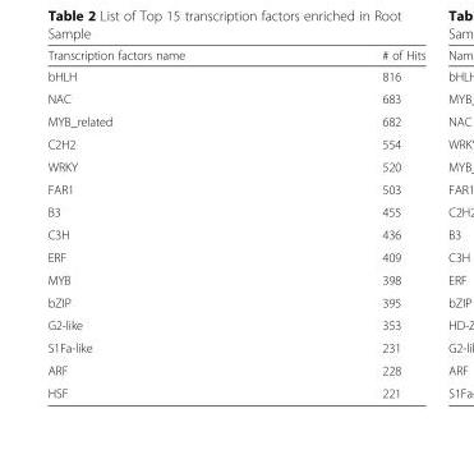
<table><thead><tr><td>Transcription factors name</td><td># of Hits</td></tr></thead><tbody><tr><td>bHLH</td><td>816</td></tr><tr><td>NAC</td><td>683</td></tr><tr><td>MYB_related</td><td>682</td></tr><tr><td>C2H2</td><td>554</td></tr><tr><td>WRKY</td><td>520</td></tr><tr><td>FAR1</td><td>503</td></tr><tr><td>B3</td><td>455</td></tr><tr><td>C3H</td><td>436</td></tr><tr><td>ERF</td><td>409</td></tr><tr><td>MYB</td><td>398</td></tr><tr><td>bZIP</td><td>395</td></tr><tr><td>G2-like</td><td>353</td></tr><tr><td>S1Fa-like</td><td>231</td></tr><tr><td>ARF</td><td>228</td></tr><tr><td>HSF</td><td>221</td></tr></tbody></table>